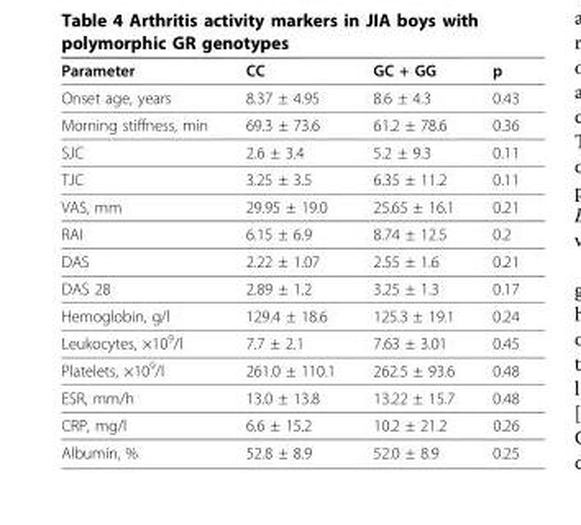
<table><thead><tr><td>Parameter</td><td>СС</td><td>GC + GG</td><td>p</td></tr></thead><tbody><tr><td>Onset age, years</td><td>8.37 ± 4.95</td><td>8.6 ± 4.3</td><td>0.43</td></tr><tr><td>Morning stiffness, min</td><td>69.3 ± 73.6</td><td>61.2 ± 78.6</td><td>0.36</td></tr><tr><td>SJC</td><td>2.6 ± 3.4</td><td>5.2 ± 9.3</td><td>0.11</td></tr><tr><td>TJC</td><td>3.25 ± 3.5</td><td>6.35 ± 11.2</td><td>0.11</td></tr><tr><td>VAS, mm</td><td>29.95 ± 19.0</td><td>25.65 ± 16.1</td><td>0.21</td></tr><tr><td>RAI</td><td>6.15 ± 6.9</td><td>8.74 ± 12.5</td><td>0.2</td></tr><tr><td>DAS</td><td>2.22 ± 1.07</td><td>2.55 ± 1.6</td><td>0.21</td></tr><tr><td>DAS 28</td><td>2.89 ± 1.2</td><td>3.25 ± 1.3</td><td>0.17</td></tr><tr><td>Hemoglobin, g/l</td><td>129.4 ± 18.6</td><td>125.3 ± 19.1</td><td>0.24</td></tr><tr><td>Leukocytes, ×10<sup>9</sup>/l</td><td>7.7 ± 2.1</td><td>7.63 ± 3.01</td><td>0.45</td></tr><tr><td>Platelets, ×10<sup>9</sup>/l</td><td>261.0 ± 110.1</td><td>262.5 ± 93.6</td><td>0.48</td></tr><tr><td>ESR, mm/h</td><td>13.0 ± 13.8</td><td>13.22 ± 15.7</td><td>0.48</td></tr><tr><td>CRP, mg/l</td><td>6.6 ± 15.2</td><td>10.2 ± 21.2</td><td>0.26</td></tr><tr><td>Albumin, %</td><td>52.8 ± 8.9</td><td>52.0 ± 8.9</td><td>0.25</td></tr></tbody></table>